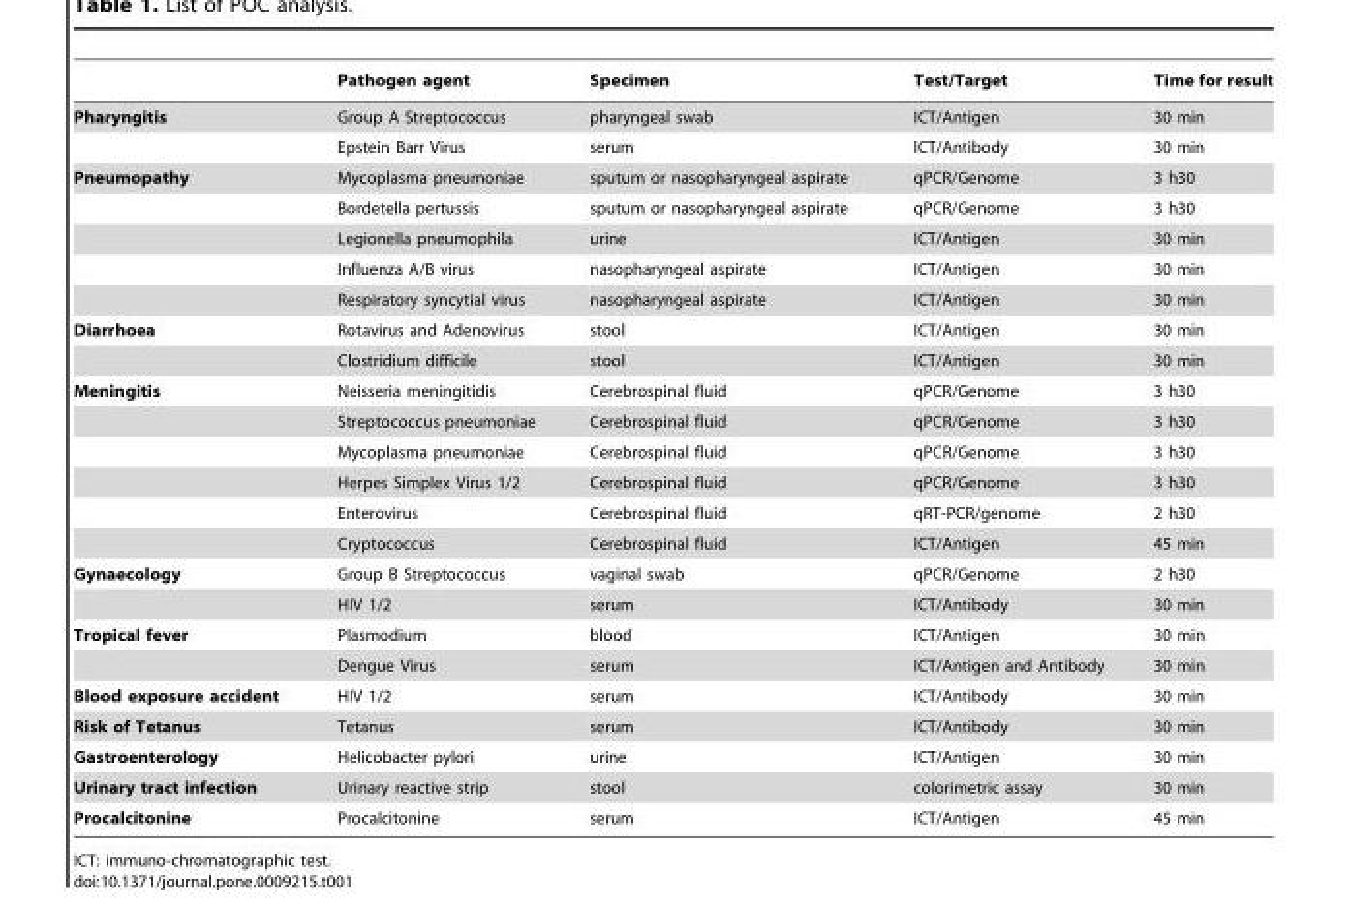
<table><thead><tr><td></td><td>Pathogen agent</td><td>Specimen</td><td>Test/Target</td><td>Time for result</td></tr></thead><tbody><tr><td rowspan="2">Pharyngitis</td><td>Group A Streptococcus</td><td>pharyngeal swab</td><td>ICT/Antigen</td><td>30 min</td></tr><tr><td>Epstein Barr Virus</td><td>serum</td><td>ICT/Antibody</td><td>30 min</td></tr><tr><td rowspan="5">Pneumopathy</td><td>Mycoplasma pneumoniae</td><td>sputum or nasopharyngeal aspirate</td><td>qPCR/Genome</td><td>3 h30</td></tr><tr><td>Bordetella pertussis</td><td>sputum or nasopharyngeal aspirate</td><td>qPCR/Genome</td><td>3 h30</td></tr><tr><td>Legionella pneumophila</td><td>urine</td><td>ICT/Antigen</td><td>30 min</td></tr><tr><td>Influenza A/B virus</td><td>nasopharyngeal aspirate</td><td>ICT/Antigen</td><td>30 min</td></tr><tr><td>Respiratory syncytial virus</td><td>nasopharyngeal aspirate</td><td>ICT/Antigen</td><td>30 min</td></tr><tr><td rowspan="2">Diarrhoea</td><td>Rotavirus and Adenovirus</td><td>stool</td><td>ICT/Antigen</td><td>30 min</td></tr><tr><td>Clostridium difficile</td><td>stool</td><td>ICT/Antigen</td><td>30 min</td></tr><tr><td rowspan="6">Meningitis</td><td>Neisseria meningitidis</td><td>Cerebrospinal fluid</td><td>qPCR/Genome</td><td>3 h30</td></tr><tr><td>Streptococcus pneumoniae</td><td>Cerebrospinal fluid</td><td>qPCR/Genome</td><td>3 h30</td></tr><tr><td>Mycoplasma pneumoniae</td><td>Cerebrospinal fluid</td><td>qPCR/Genome</td><td>3 h30</td></tr><tr><td>Herpes Simplex Virus 1/2</td><td>Cerebrospinal fluid</td><td>qPCR/Genome</td><td>3 h30</td></tr><tr><td>Enterovirus</td><td>Cerebrospinal fluid</td><td>qRT-PCR/genome</td><td>2 h30</td></tr><tr><td>Cryptococcus</td><td>Cerebrospinal fluid</td><td>ICT/Antigen</td><td>45 min</td></tr><tr><td rowspan="2">Gynaecology</td><td>Group B Streptococcus</td><td>vaginal swab</td><td>qPCR/Genome</td><td>2 h30</td></tr><tr><td>HIV 1/2</td><td>serum</td><td>ICT/Antibody</td><td>30 min</td></tr><tr><td rowspan="2">Tropical fever</td><td>Plasmodium</td><td>blood</td><td>ICT/Antigen</td><td>30 min</td></tr><tr><td>Dengue Virus</td><td>serum</td><td>ICT/Antigen and Antibody</td><td>30 min</td></tr><tr><td>Blood exposure accident</td><td>HIV 1/2</td><td>serum</td><td>ICT/Antibody</td><td>30 min</td></tr><tr><td>Risk of Tetanus</td><td>Tetanus</td><td>serum</td><td>ICT/Antibody</td><td>30 min</td></tr><tr><td>Gastroenterology</td><td>Helicobacter pylori</td><td>urine</td><td>ICT/Antigen</td><td>30 min</td></tr><tr><td>Urinary tract infection</td><td>Urinary reactive strip</td><td>stool</td><td>colorimetric assay</td><td>30 min</td></tr><tr><td>Procalcitonine</td><td>Procalcitonine</td><td>serum</td><td>ICT/Antigen</td><td>45 min</td></tr></tbody></table>